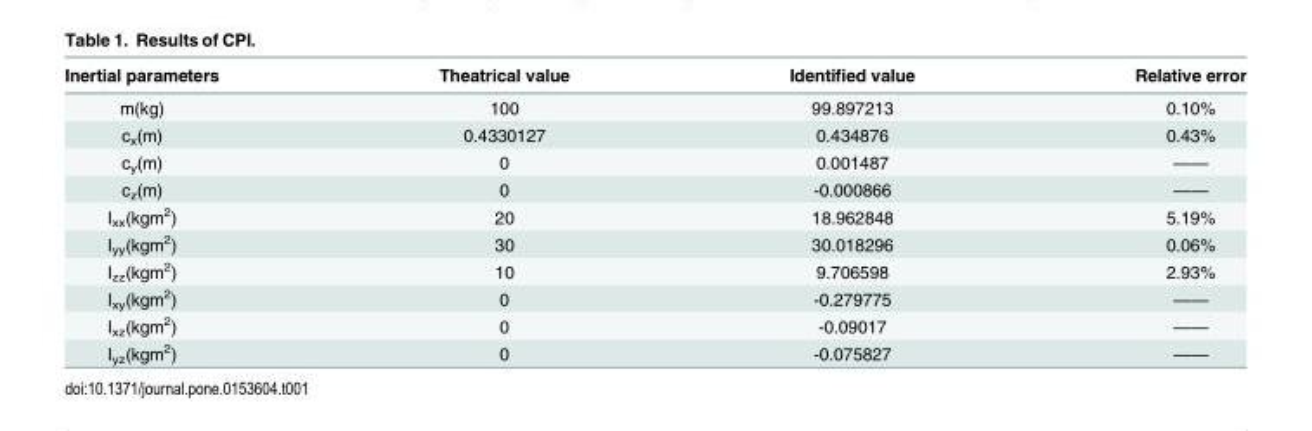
<table><thead><tr><td>Inertial parameters</td><td>Theatrical value</td><td>Identified value</td><td>Relative error</td></tr></thead><tbody><tr><td>m(kg)</td><td>100</td><td>99.897213</td><td>0.10%</td></tr><tr><td>c<sub>x</sub>(m)</td><td>0.4330127</td><td>0.434876</td><td>0.43%</td></tr><tr><td>c<sub>y</sub>(m)</td><td>0</td><td>0.001487</td><td>——</td></tr><tr><td>c<sub>z</sub>(m)</td><td>0</td><td>-0.000866</td><td>——</td></tr><tr><td>I<sub>xx</sub>(kgm<sup>2</sup>)</td><td>20</td><td>18.962848</td><td>5.19%</td></tr><tr><td>I<sub>yy</sub>(kgm<sup>2</sup>)</td><td>30</td><td>30.018296</td><td>0.06%</td></tr><tr><td>I<sub>zz</sub>(kgm<sup>2</sup>)</td><td>10</td><td>9.706598</td><td>2.93%</td></tr><tr><td>I<sub>xy</sub>(kgm<sup>2</sup>)</td><td>0</td><td>-0.279775</td><td>——</td></tr><tr><td>I<sub>xz</sub>(kgm<sup>2</sup>)</td><td>0</td><td>-0.09017</td><td>——</td></tr><tr><td>I<sub>yz</sub>(kgm<sup>2</sup>)</td><td>0</td><td>-0.075827</td><td>——</td></tr></tbody></table>